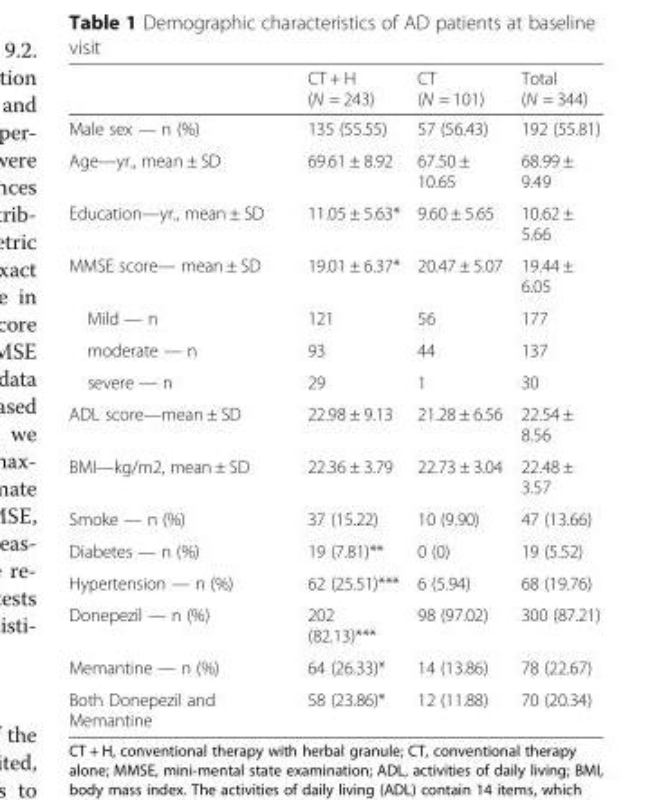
<table><thead><tr><td></td><td>CT + H (N = 243)</td><td>CT (N = 101)</td><td>Total (N = 344)</td></tr></thead><tbody><tr><td>Male sex — n (%)</td><td>135 (55.55)</td><td>57 (56.43)</td><td>192 (55.81)</td></tr><tr><td>Age—yr., mean ± SD</td><td>69.61 ± 8.92</td><td>67.50 ± 10.65</td><td>68.99 ± 9.49</td></tr><tr><td>Education—yr., mean ± SD</td><td>11.05 ± 5.63*</td><td>9.60 ± 5.65</td><td>10.62 ± 5.66</td></tr><tr><td>MMSE score— mean ± SD</td><td>19.01 ± 6.37*</td><td>20.47 ± 5.07</td><td>19.44 ± 6.05</td></tr><tr><td>Mild — n</td><td>121</td><td>56</td><td>177</td></tr><tr><td>moderate — n</td><td>93</td><td>44</td><td>137</td></tr><tr><td>severe — n</td><td>29</td><td>1</td><td>30</td></tr><tr><td>ADL score—mean ± SD</td><td>22.98 ± 9.13</td><td>21.28 ± 6.56</td><td>22.54 ± 8.56</td></tr><tr><td>BMI—kg/m2, mean ± SD</td><td>22.36 ± 3.79</td><td>22.73 ± 3.04</td><td>22.48 ± 3.57</td></tr><tr><td>Smoke — n (%)</td><td>37 (15.22)</td><td>10 (9.90)</td><td>47 (13.66)</td></tr><tr><td>Diabetes — n (%)</td><td>19 (7.81)**</td><td>0 (0)</td><td>19 (5.52)</td></tr><tr><td>Hypertension — n (%)</td><td>62 (25.51)***</td><td>6 (5.94)</td><td>68 (19.76)</td></tr><tr><td>Donepezil — n (%)</td><td>202 (82.13)***</td><td>98 (97.02)</td><td>300 (87.21)</td></tr><tr><td>Memantine — n (%)</td><td>64 (26.33)*</td><td>14 (13.86)</td><td>78 (22.67)</td></tr><tr><td>Both Donepezil and Memantine</td><td>58 (23.86)*</td><td>12 (11.88)</td><td>70 (20.34)</td></tr></tbody></table>